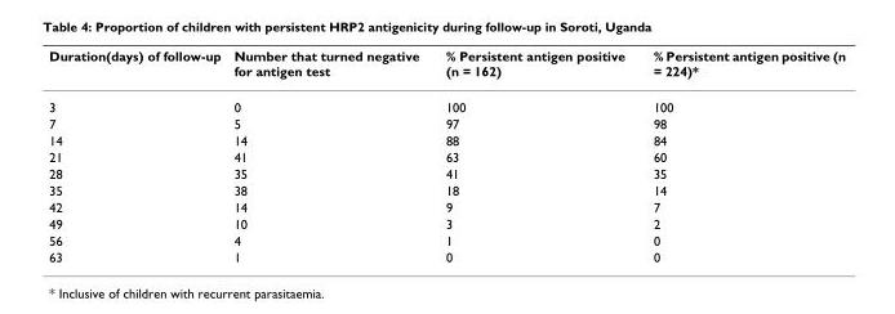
<table><thead><tr><td>Duration(days) of follow-up</td><td>Number that turned negative for antigen test</td><td>% Persistent antigen positive (n = 162)</td><td>% Persistent antigen positive (n = 224)*</td></tr></thead><tbody><tr><td>3</td><td>0</td><td>100</td><td>100</td></tr><tr><td>7</td><td>5</td><td>97</td><td>98</td></tr><tr><td>14</td><td>14</td><td>88</td><td>84</td></tr><tr><td>21</td><td>41</td><td>63</td><td>60</td></tr><tr><td>28</td><td>35</td><td>41</td><td>35</td></tr><tr><td>35</td><td>38</td><td>18</td><td>14</td></tr><tr><td>42</td><td>14</td><td>9</td><td>7</td></tr><tr><td>49</td><td>10</td><td>3</td><td>2</td></tr><tr><td>56</td><td>4</td><td>1</td><td>0</td></tr><tr><td>63</td><td>1</td><td>0</td><td>0</td></tr></tbody></table>